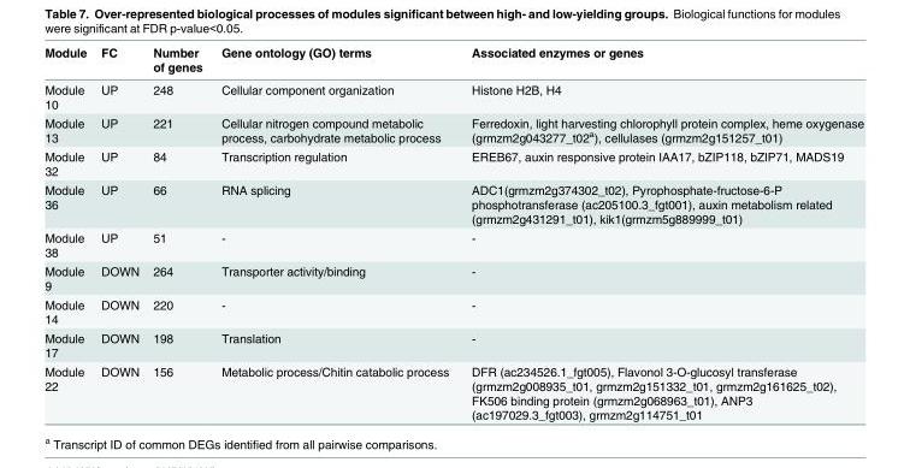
<table><thead><tr><td>Module</td><td>FC</td><td>Number of genes</td><td>Gene ontology (GO) terms</td><td>Associated enzymes or genes</td></tr></thead><tbody><tr><td>Module 10</td><td>UP</td><td>248</td><td>Cellular component organization</td><td>Histone H2B, H4</td></tr><tr><td>Module 13</td><td>UP</td><td>221</td><td>Cellular nitrogen compound metabolic process, carbohydrate metabolic process</td><td>Ferredoxin, light harvesting chlorophyll protein complex, heme oxygenase (grmzm2g043277_t02<sup>a</sup>), cellulases (grmzm2g151257_t01)</td></tr><tr><td>Module 32</td><td>UP</td><td>84</td><td>Transcription regulation</td><td>EREB67, auxin responsive protein IAA17, bZIP118, bZIP71, MADS19</td></tr><tr><td>Module 36</td><td>UP</td><td>66</td><td>RNA splicing</td><td>ADC1(grmzm2g374302_t02), Pyrophosphate-fructose-6-P phosphotransferase (ac205100.3_fgt001), auxin metabolism related (grmzm2g431291_t01), kik1(grmzm5g889999_t01)</td></tr><tr><td>Module 38</td><td>UP</td><td>51</td><td>-</td><td>-</td></tr><tr><td>Module 9</td><td>DOWN</td><td>264</td><td>Transporter activity/binding</td><td>-</td></tr><tr><td>Module 14</td><td>DOWN</td><td>220</td><td>-</td><td>-</td></tr><tr><td>Module 17</td><td>DOWN</td><td>198</td><td>Translation</td><td>-</td></tr><tr><td>Module 22</td><td>DOWN</td><td>156</td><td>Metabolic process/Chitin catabolic process</td><td>DFR (ac234526.1_fgt005), Flavonol 3-O-glucosyl transferase (grmzm2g008935_t01, grmzm2g151332_t01, grmzm2g161625_t02), FK506 binding protein (grmzm2g068963_t01), ANP3 (ac197029.3_fgt003), grmzm2g114751_t01</td></tr></tbody></table>